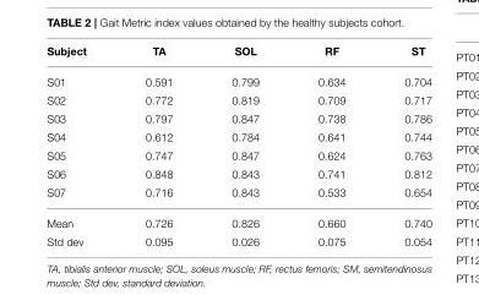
<table><thead><tr><td>Subject</td><td>TA</td><td>SOL</td><td>RF</td><td>ST</td></tr></thead><tbody><tr><td>S01</td><td>0.591</td><td>0.799</td><td>0.634</td><td>0.704</td></tr><tr><td>S02</td><td>0.772</td><td>0.819</td><td>0.709</td><td>0.717</td></tr><tr><td>S03</td><td>0.797</td><td>0.847</td><td>0.738</td><td>0.786</td></tr><tr><td>S04</td><td>0.612</td><td>0.784</td><td>0.641</td><td>0.744</td></tr><tr><td>S05</td><td>0.747</td><td>0.847</td><td>0.624</td><td>0.763</td></tr><tr><td>S06</td><td>0.848</td><td>0.843</td><td>0.741</td><td>0.812</td></tr><tr><td>S07</td><td>0.716</td><td>0.843</td><td>0.533</td><td>0.654</td></tr><tr><td>Mean</td><td>0.726</td><td>0.826</td><td>0.660</td><td>0.740</td></tr><tr><td>Std dev</td><td>0.095</td><td>0.026</td><td>0.075</td><td>0.054</td></tr></tbody></table>